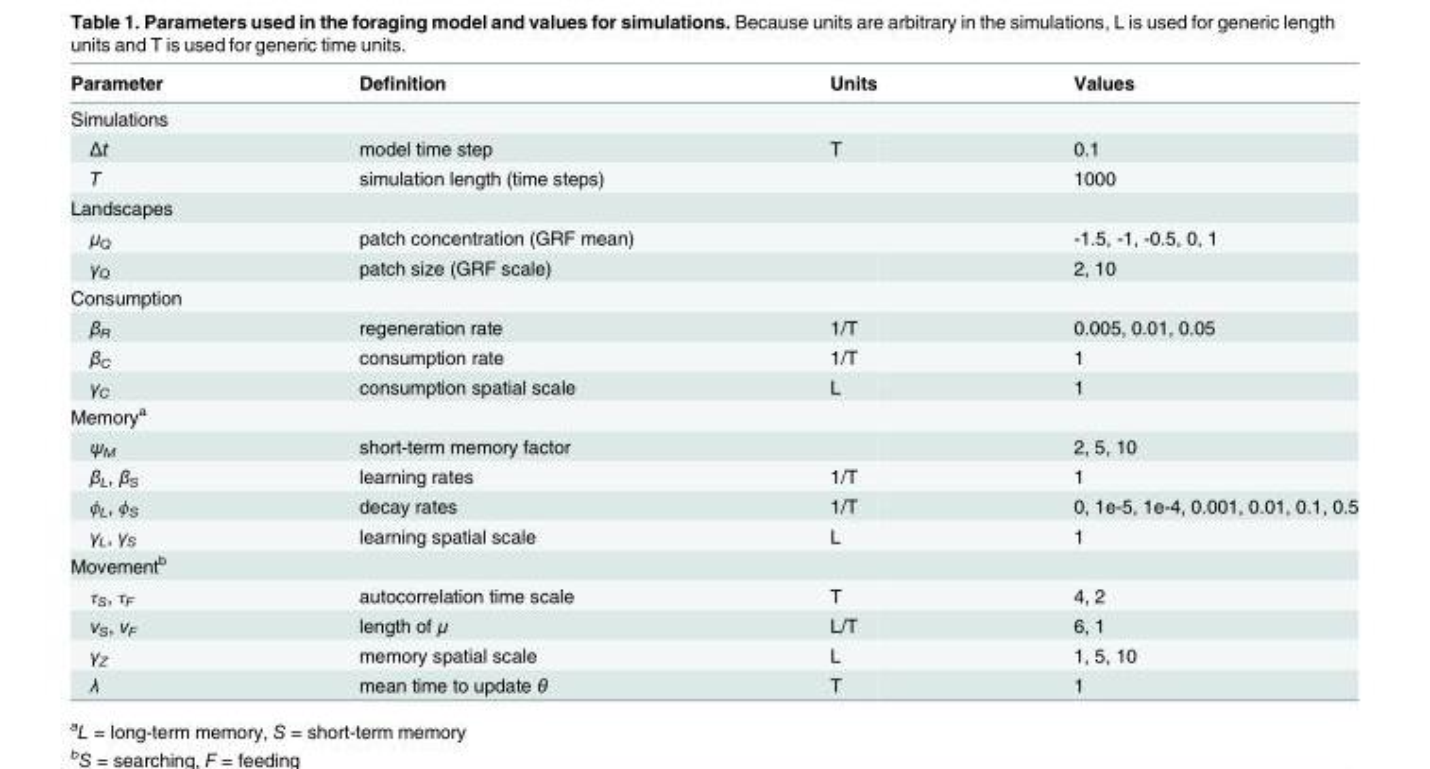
<table><thead><tr><td>Parameter</td><td>Definition</td><td>Units</td><td>Values</td></tr></thead><tbody><tr><td colspan="4">Simulations</td></tr><tr><td>Δt</td><td>model time step</td><td>T</td><td>0.1</td></tr><tr><td>T</td><td>simulation length (time steps)</td><td></td><td>1000</td></tr><tr><td colspan="4">Landscapes</td></tr><tr><td>μ<sub>Q</sub></td><td>patch concentration (GRF mean)</td><td></td><td>-1.5, -1, -0.5, 0, 1</td></tr><tr><td>γ<sub>Q</sub></td><td>patch size (GRF scale)</td><td></td><td>2, 10</td></tr><tr><td colspan="4">Consumption</td></tr><tr><td>β<sub>R</sub></td><td>regeneration rate</td><td>1/T</td><td>0.005, 0.01, 0.05</td></tr><tr><td>β<sub>C</sub></td><td>consumption rate</td><td>1/T</td><td>1</td></tr><tr><td>γ<sub>C</sub></td><td>consumption spatial scale</td><td>L</td><td>1</td></tr><tr><td colspan="4">Memory<sup>a</sup></td></tr><tr><td>ψ<sub>M</sub></td><td>short-term memory factor</td><td></td><td>2, 5, 10</td></tr><tr><td>β<sub>L</sub>, β<sub>S</sub></td><td>learning rates</td><td>1/T</td><td>1</td></tr><tr><td>ϕ<sub>L</sub>, ϕ<sub>S</sub></td><td>decay rates</td><td>1/T</td><td>0, 1e-5, 1e-4, 0.001, 0.01, 0.1, 0.5</td></tr><tr><td>γ<sub>L</sub>, γ<sub>S</sub></td><td>learning spatial scale</td><td>L</td><td>1</td></tr><tr><td colspan="4">Movement<sup>b</sup></td></tr><tr><td>τ<sub>S</sub>, τ<sub>F</sub></td><td>autocorrelation time scale</td><td>T</td><td>4, 2</td></tr><tr><td>ν<sub>S</sub>, ν<sub>F</sub></td><td>length of μ</td><td>L/T</td><td>6, 1</td></tr><tr><td>γ<sub>Z</sub></td><td>memory spatial scale</td><td>L</td><td>1, 5, 10</td></tr><tr><td>λ</td><td>mean time to update θ</td><td>T</td><td>1</td></tr></tbody></table>